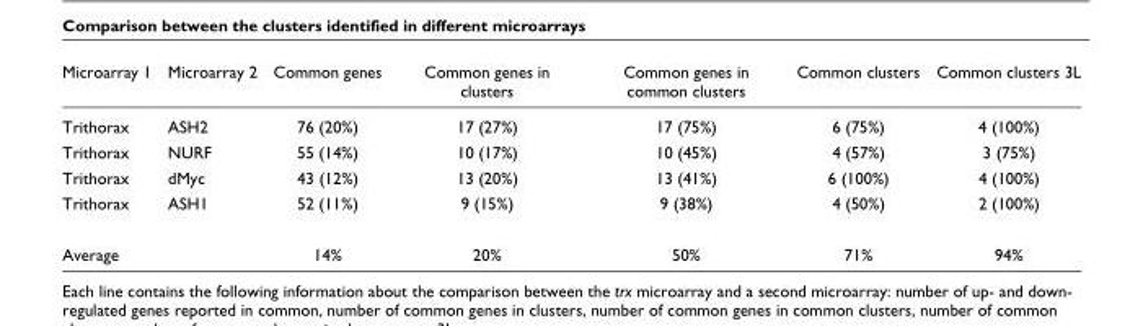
<table><thead><tr><td>Microarray 1</td><td>Microarray 2</td><td>Common genes</td><td>Common genes in clusters</td><td>Common genes in common clusters</td><td>Common clusters</td><td>Common clusters 3L</td></tr></thead><tbody><tr><td>Trithorax</td><td>ASH2</td><td>76 (20%)</td><td>17 (27%)</td><td>17 (75%)</td><td>6 (75%)</td><td>4 (100%)</td></tr><tr><td>Trithorax</td><td>NURF</td><td>55 (14%)</td><td>10 (17%)</td><td>10 (45%)</td><td>4 (57%)</td><td>3 (75%)</td></tr><tr><td>Trithorax</td><td>dMyc</td><td>43 (12%)</td><td>13 (20%)</td><td>13 (41%)</td><td>6 (100%)</td><td>4 (100%)</td></tr><tr><td>Trithorax</td><td>ASH1</td><td>52 (11%)</td><td>9 (15%)</td><td>9 (38%)</td><td>4 (50%)</td><td>2 (100%)</td></tr><tr><td>Average</td><td></td><td>14%</td><td>20%</td><td>50%</td><td>71%</td><td>94%</td></tr></tbody></table>